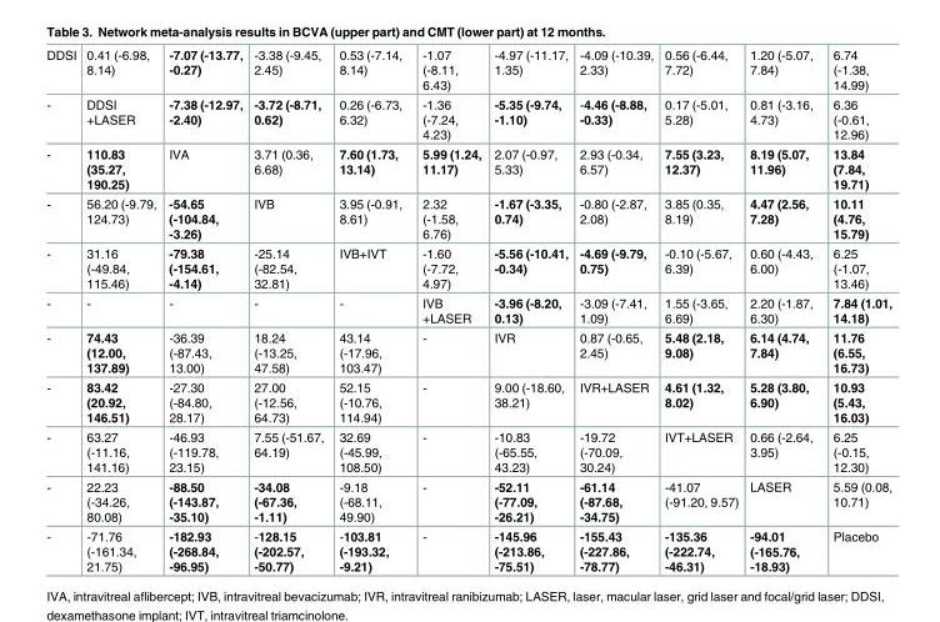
<table><tbody><tr><td>DDSI</td><td>0.41 (-6.98, 8.14)</td><td>-7.07 (-13.77, -0.27)</td><td>-3.38 (-9.45, 2.45)</td><td>0.53 (-7.14, 8.14)</td><td>-1.07 (-8.11, 6.43)</td><td>-4.97 (-11.17, 1.35)</td><td>-4.09 (-10.39, 2.33)</td><td>0.56 (-6.44, 7.72)</td><td>1.20 (-5.07, 7.84)</td><td>6.74 (-1.38, 14.99)</td></tr><tr><td>-</td><td>DDSI +LASER</td><td>-7.38 (-12.97, -2.40)</td><td>-3.72 (-8.71, 0.62)</td><td>0.26 (-6.73, 6.32)</td><td>-1.36 (-7.24, 4.23)</td><td>-5.35 (-9.74, -1.10)</td><td>-4.46 (-8.88, -0.33)</td><td>0.17 (-5.01, 5.28)</td><td>0.81 (-3.16, 4.73)</td><td>6.36 (-0.61, 12.96)</td></tr><tr><td>-</td><td>110.83 (35.27, 190.25)</td><td>IVA</td><td>3.71 (0.36, 6.68)</td><td>7.60 (1.73, 13.14)</td><td>5.99 (1.24, 11.17)</td><td>2.07 (-0.97, 5.33)</td><td>2.93 (-0.34, 6.57)</td><td>7.55 (3.23, 12.37)</td><td>8.19 (5.07, 11.96)</td><td>13.84 (7.84, 19.71)</td></tr><tr><td>-</td><td>56.20 (-9.79, 124.73)</td><td>-54.65 (-104.84, -3.26)</td><td>IVB</td><td>3.95 (-0.91, 8.61)</td><td>2.32 (-1.58, 6.76)</td><td>-1.67 (-3.35, 0.74)</td><td>-0.80 (-2.87, 2.08)</td><td>3.85 (0.35, 8.19)</td><td>4.47 (2.56, 7.28)</td><td>10.11 (4.76, 15.79)</td></tr><tr><td>-</td><td>31.16 (-49.84, 115.46)</td><td>-79.38 (-154.61, -4.14)</td><td>-25.14 (-82.54, 32.81)</td><td>IVB+IVT</td><td>-1.60 (-7.72, 4.97)</td><td>-5.56 (-10.41, -0.34)</td><td>-4.69 (-9.79, 0.75)</td><td>-0.10 (-5.67, 6.39)</td><td>0.60 (-4.43, 6.00)</td><td>6.25 (-1.07, 13.46)</td></tr><tr><td>-</td><td>-</td><td>-</td><td>-</td><td>-</td><td>IVB +LASER</td><td>-3.96 (-8.20, 0.13)</td><td>-3.09 (-7.41, 1.09)</td><td>1.55 (-3.65, 6.69)</td><td>2.20 (-1.87, 6.30)</td><td>7.84 (1.01, 14.18)</td></tr><tr><td>-</td><td>74.43 (12.00, 137.89)</td><td>-36.39 (-87.43, 13.00)</td><td>18.24 (-13.25, 47.58)</td><td>43.14 (-17.96, 103.47)</td><td>-</td><td>IVR</td><td>0.87 (-0.65, 2.45)</td><td>5.48 (2.18, 9.08)</td><td>6.14 (4.74, 7.84)</td><td>11.76 (6.55, 16.73)</td></tr><tr><td>-</td><td>83.42 (20.92, 146.51)</td><td>-27.30 (-84.80, 28.17)</td><td>27.00 (-12.56, 64.73)</td><td>52.15 (-10.76, 114.94)</td><td>-</td><td>9.00 (-18.60, 38.21)</td><td>IVR+LASER</td><td>4.61 (1.32, 8.02)</td><td>5.28 (3.80, 6.90)</td><td>10.93 (5.43, 16.03)</td></tr><tr><td>-</td><td>63.27 (-11.16, 141.16)</td><td>-46.93 (-119.78, 23.15)</td><td>7.55 (-51.67, 64.19)</td><td>32.69 (-45.99, 108.50)</td><td>-</td><td>-10.83 (-65.55, 43.23)</td><td>-19.72 (-70.09, 30.24)</td><td>IVT+LASER</td><td>0.66 (-2.64, 3.95)</td><td>6.25 (-0.15, 12.30)</td></tr><tr><td>-</td><td>22.23 (-34.26, 80.08)</td><td>-88.50 (-143.87, -35.10)</td><td>-34.08 (-67.36, -1.11)</td><td>-9.18 (-68.11, 49.90)</td><td>-</td><td>-52.11 (-77.09, -26.21)</td><td>-61.14 (-87.68, -34.75)</td><td>-41.07 (-91.20, 9.57)</td><td>LASER</td><td>5.59 (0.08, 10.71)</td></tr><tr><td>-</td><td>-71.76 (-161.34, 21.75)</td><td>-182.93 (-268.84, -96.95)</td><td>-128.15 (-202.57, -50.77)</td><td>-103.81 (-193.32, -9.21)</td><td>-</td><td>-145.96 (-213.86, -75.51)</td><td>-155.43 (-227.86, -78.77)</td><td>-135.36 (-222.74, -46.31)</td><td>-94.01 (-165.76, -18.93)</td><td>Placebo</td></tr></tbody></table>